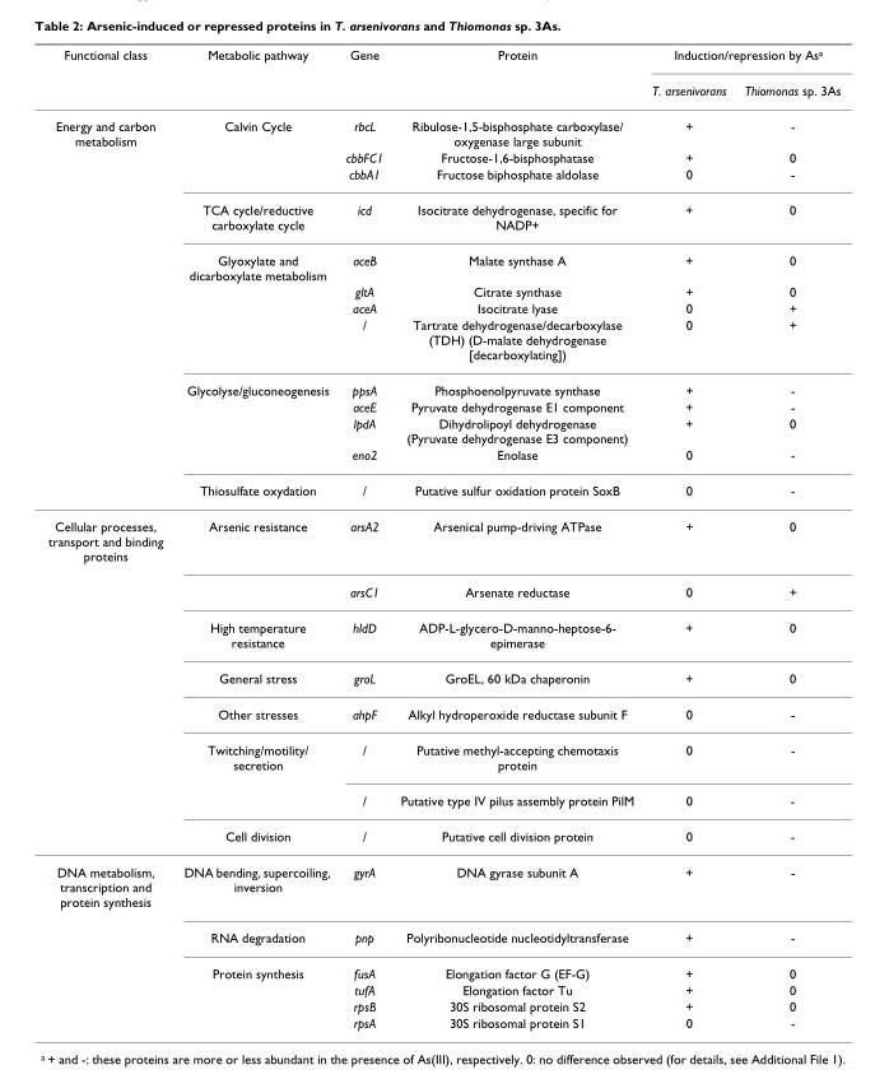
<table><thead><tr><td rowspan="2">Functional class</td><td rowspan="2">Metabolic pathway</td><td rowspan="2">Gene</td><td rowspan="2">Protein</td><td colspan="2">Induction/repression by As<sup>a</sup></td></tr><tr><td>T. arsenivorans</td><td>Thiomonas sp. 3As</td></tr></thead><tbody><tr><td rowspan="13">Energy and carbon metabolism</td><td>Calvin Cycle</td><td>rbcL</td><td>Ribulose-1,5-bisphosphate carboxylase/ oxygenase large subunit</td><td>+</td><td>-</td></tr><tr><td></td><td>cbbFC1</td><td>Fructose-1,6-bisphosphatase</td><td>+</td><td>0</td></tr><tr><td></td><td>cbbA1</td><td>Fructose biphosphate aldolase</td><td>0</td><td>-</td></tr><tr><td>TCA cycle/reductive carboxylate cycle</td><td>icd</td><td>Isocitrate dehydrogenase, specific for NADP+</td><td>+</td><td>0</td></tr><tr><td>Glyoxylate and dicarboxylate metabolism</td><td>aceB</td><td>Malate synthase A</td><td>+</td><td>0</td></tr><tr><td></td><td>gltA</td><td>Citrate synthase</td><td>+</td><td>0</td></tr><tr><td></td><td>aceA</td><td>Isocitrate lyase</td><td>0</td><td>+</td></tr><tr><td></td><td>/</td><td>Tartrate dehydrogenase/decarboxylase (TDH) (D-malate dehydrogenase [decarboxylating])</td><td>0</td><td>+</td></tr><tr><td>Glycolyse/gluconeogenesis</td><td>ppsA</td><td>Phosphoenolpyruvate synthase</td><td>+</td><td>-</td></tr><tr><td></td><td>aceE</td><td>Pyruvate dehydrogenase E1 component</td><td>+</td><td>-</td></tr><tr><td></td><td>lpdA</td><td>Dihydrolipoyl dehydrogenase (Pyruvate dehydrogenase E3 component)</td><td>+</td><td>0</td></tr><tr><td></td><td>eno2</td><td>Enolase</td><td>0</td><td>-</td></tr><tr><td>Thiosulfate oxydation</td><td>/</td><td>Putative sulfur oxidation protein SoxB</td><td>0</td><td>-</td></tr><tr><td rowspan="8">Cellular processes, transport and binding proteins</td><td>Arsenic resistance</td><td>arsA2</td><td>Arsenical pump-driving ATPase</td><td>+</td><td>0</td></tr><tr><td></td><td>arsC1</td><td>Arsenate reductase</td><td>0</td><td>+</td></tr><tr><td>High temperature resistance</td><td>hldD</td><td>ADP-L-glycero-D-manno-heptose-6- epimerase</td><td>+</td><td>0</td></tr><tr><td>General stress</td><td>groL</td><td>GroEL, 60 kDa chaperonin</td><td>+</td><td>0</td></tr><tr><td>Other stresses</td><td>ahpF</td><td>Alkyl hydroperoxide reductase subunit F</td><td>0</td><td>-</td></tr><tr><td>Twitching/motility/ secretion</td><td>/</td><td>Putative methyl-accepting chemotaxis protein</td><td>0</td><td>-</td></tr><tr><td></td><td>/</td><td>Putative type IV pilus assembly protein PilM</td><td>0</td><td>-</td></tr><tr><td>Cell division</td><td>/</td><td>Putative cell division protein</td><td>0</td><td>-</td></tr><tr><td rowspan="6">DNA metabolism, transcription and protein synthesis</td><td>DNA bending, supercoiling, inversion</td><td>gyrA</td><td>DNA gyrase subunit A</td><td>+</td><td>-</td></tr><tr><td>RNA degradation</td><td>pnp</td><td>Polyribonucleotide nucleotidyltransferase</td><td>+</td><td>-</td></tr><tr><td>Protein synthesis</td><td>fusA</td><td>Elongation factor G (EF-G)</td><td>+</td><td>0</td></tr><tr><td></td><td>tufA</td><td>Elongation factor Tu</td><td>+</td><td>0</td></tr><tr><td></td><td>rpsB</td><td>30S ribosomal protein S2</td><td>+</td><td>0</td></tr><tr><td></td><td>rpsA</td><td>30S ribosomal protein S1</td><td>0</td><td>-</td></tr></tbody></table>